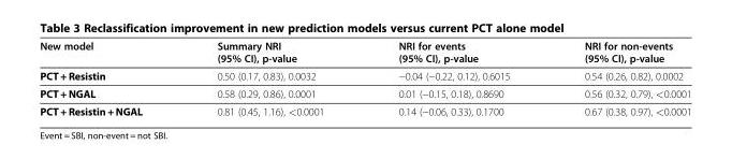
<table><thead><tr><td>New model</td><td>Summary NRI (95% CI), p-value</td><td>NRI for events (95% CI), p-value</td><td>NRI for non-events (95% CI), p-value</td></tr></thead><tbody><tr><td>PCT + Resistin</td><td>0.50 (0.17, 0.83), 0.0032</td><td>−0.04 (−0.22, 0.12), 0.6015</td><td>0.54 (0.26, 0.82), 0.0002</td></tr><tr><td>PCT + NGAL</td><td>0.58 (0.29, 0.86), 0.0001</td><td>0.01 (−0.15, 0.18), 0.8690</td><td>0.56 (0.32, 0.79), &lt;0.0001</td></tr><tr><td>PCT + Resistin + NGAL</td><td>0.81 (0.45, 1.16), &lt;0.0001</td><td>0.14 (−0.06, 0.33), 0.1700</td><td>0.67 (0.38, 0.97), &lt;0.0001</td></tr></tbody></table>